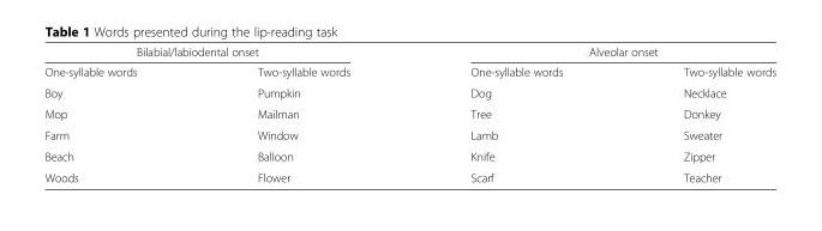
<table><tbody><tr><td colspan="2">Bilabial/labiodental onset</td><td colspan="2">Alveolar onset</td></tr><tr><td>One-syllable words</td><td>Two-syllable words</td><td>One-syllable words</td><td>Two-syllable words</td></tr><tr><td>Boy</td><td>Pumpkin</td><td>Dog</td><td>Necklace</td></tr><tr><td>Mop</td><td>Mailman</td><td>Tree</td><td>Donkey</td></tr><tr><td>Farm</td><td>Window</td><td>Lamb</td><td>Sweater</td></tr><tr><td>Beach</td><td>Balloon</td><td>Knife</td><td>Zipper</td></tr><tr><td>Woods</td><td>Flower</td><td>Scarf</td><td>Teacher</td></tr></tbody></table>